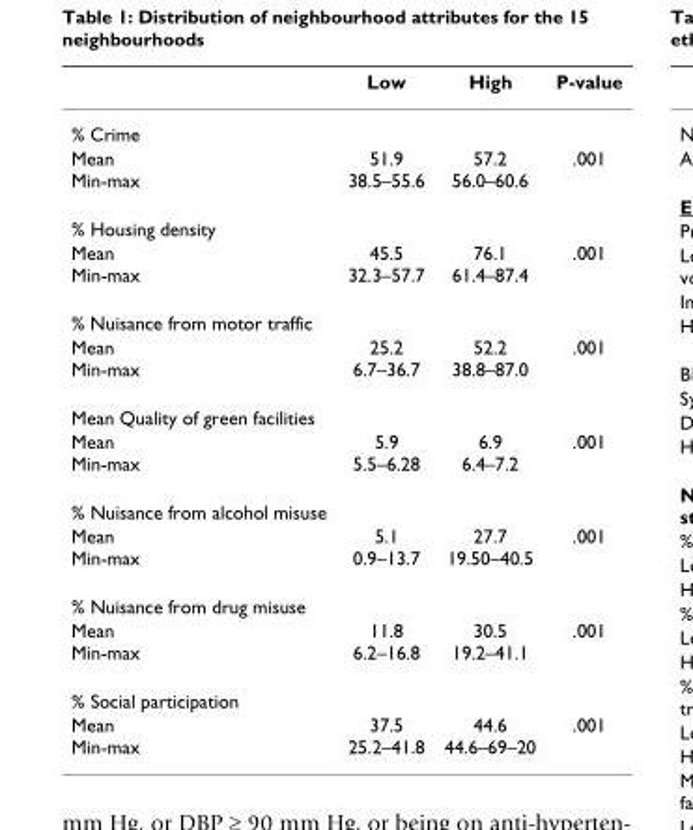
<table><thead><tr><td></td><td>Low</td><td>High</td><td>P-value</td></tr></thead><tbody><tr><td colspan="4">% Crime</td></tr><tr><td>Mean Min-max</td><td>51.9 38.5–55.6</td><td>57.2 56.0–60.6</td><td>.001</td></tr><tr><td colspan="4">% Housing density</td></tr><tr><td>Mean Min-max</td><td>45.5 32.3–57.7</td><td>76.1 61.4–87.4</td><td>.001</td></tr><tr><td colspan="4">% Nuisance from motor traffic</td></tr><tr><td>Mean Min-max</td><td>25.2 6.7–36.7</td><td>52.2 38.8–87.0</td><td>.001</td></tr><tr><td colspan="4">Mean Quality of green facilities</td></tr><tr><td>Mean Min-max</td><td>5.9 5.5–6.28</td><td>6.9 6.4–7.2</td><td>.001</td></tr><tr><td colspan="4">% Nuisance from alcohol misuse</td></tr><tr><td>Mean Min-max</td><td>5.1 0.9–13.7</td><td>27.7 19.50–40.5</td><td>.001</td></tr><tr><td colspan="4">% Nuisance from drug misuse</td></tr><tr><td>Mean Min-max</td><td>11.8 6.2–16.8</td><td>30.5 19.2–41.1</td><td>.001</td></tr><tr><td colspan="4">% Social participation</td></tr><tr><td>Mean Min-max</td><td>37.5 25.2–41.8</td><td>44.6 44.6–69–20</td><td>.001</td></tr></tbody></table>